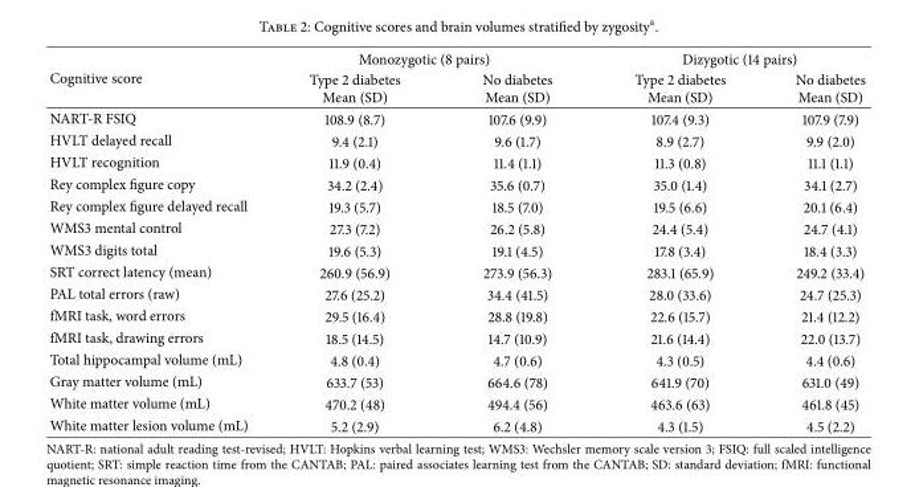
<table><thead><tr><td rowspan="2">Cognitive score</td><td colspan="2">Monozygotic (8 pairs)</td><td colspan="2">Dizygotic (14 pairs)</td></tr><tr><td>Type 2 diabetes Mean (SD)</td><td>No diabetes Mean (SD)</td><td>Type 2 diabetes Mean (SD)</td><td>No diabetes Mean (SD)</td></tr></thead><tbody><tr><td>NART-R FSIQ</td><td>108.9 (8.7)</td><td>107.6 (9.9)</td><td>107.4 (9.3)</td><td>107.9 (7.9)</td></tr><tr><td>HVLT delayed recall</td><td>9.4 (2.1)</td><td>9.6 (1.7)</td><td>8.9 (2.7)</td><td>9.9 (2.0)</td></tr><tr><td>HVLT recognition</td><td>11.9 (0.4)</td><td>11.4 (1.1)</td><td>11.3 (0.8)</td><td>11.1 (1.1)</td></tr><tr><td>Rey complex figure copy</td><td>34.2 (2.4)</td><td>35.6 (0.7)</td><td>35.0 (1.4)</td><td>34.1 (2.7)</td></tr><tr><td>Rey complex figure delayed recall</td><td>19.3 (5.7)</td><td>18.5 (7.0)</td><td>19.5 (6.6)</td><td>20.1 (6.4)</td></tr><tr><td>WMS3 mental control</td><td>27.3 (7.2)</td><td>26.2 (5.8)</td><td>24.4 (5.4)</td><td>24.7 (4.1)</td></tr><tr><td>WMS3 digits total</td><td>19.6 (5.3)</td><td>19.1 (4.5)</td><td>17.8 (3.4)</td><td>18.4 (3.3)</td></tr><tr><td>SRT correct latency (mean)</td><td>260.9 (56.9)</td><td>273.9 (56.3)</td><td>283.1 (65.9)</td><td>249.2 (33.4)</td></tr><tr><td>PAL total errors (raw)</td><td>27.6 (25.2)</td><td>34.4 (41.5)</td><td>28.0 (33.6)</td><td>24.7 (25.3)</td></tr><tr><td>fMRI task, word errors</td><td>29.5 (16.4)</td><td>28.8 (19.8)</td><td>22.6 (15.7)</td><td>21.4 (12.2)</td></tr><tr><td>fMRI task, drawing errors</td><td>18.5 (14.5)</td><td>14.7 (10.9)</td><td>21.6 (14.4)</td><td>22.0 (13.7)</td></tr><tr><td>Total hippocampal volume (mL)</td><td>4.8 (0.4)</td><td>4.7 (0.6)</td><td>4.3 (0.5)</td><td>4.4 (0.6)</td></tr><tr><td>Gray matter volume (mL)</td><td>633.7 (53)</td><td>664.6 (78)</td><td>641.9 (70)</td><td>631.0 (49)</td></tr><tr><td>White matter volume (mL)</td><td>470.2 (48)</td><td>494.4 (56)</td><td>463.6 (63)</td><td>461.8 (45)</td></tr><tr><td>White matter lesion volume (mL)</td><td>5.2 (2.9)</td><td>6.2 (4.8)</td><td>4.3 (1.5)</td><td>4.5 (2.2)</td></tr></tbody></table>